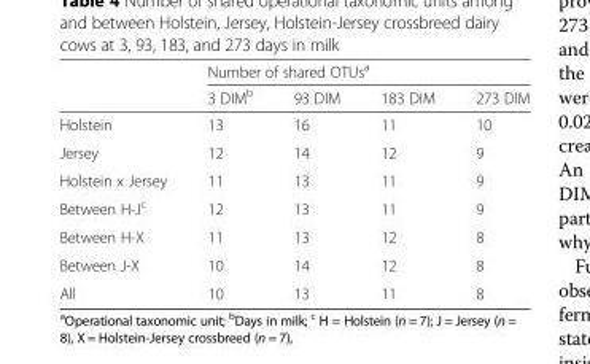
<table><thead><tr><td rowspan="2"></td><td colspan="4">Number of shared OTUs<sup>a</sup></td></tr><tr><td>3 DIM<sup>b</sup></td><td>93 DIM</td><td>183 DIM</td><td>273 DIM</td></tr></thead><tbody><tr><td>Holstein</td><td>13</td><td>16</td><td>11</td><td>10</td></tr><tr><td>Jersey</td><td>12</td><td>14</td><td>12</td><td>9</td></tr><tr><td>Holstein x Jersey</td><td>11</td><td>13</td><td>11</td><td>9</td></tr><tr><td>Between H-J<sup>c</sup></td><td>12</td><td>13</td><td>11</td><td>9</td></tr><tr><td>Between H-X</td><td>11</td><td>13</td><td>12</td><td>8</td></tr><tr><td>Between J-X</td><td>10</td><td>14</td><td>12</td><td>8</td></tr><tr><td>All</td><td>10</td><td>13</td><td>11</td><td>8</td></tr></tbody></table>